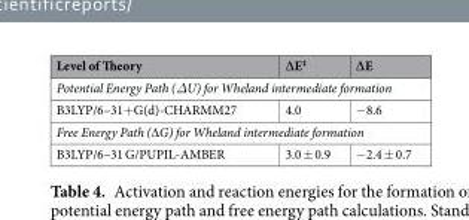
<table><thead><tr><td>Level of Theory</td><td>∆E<sup>‡</sup></td><td>∆E</td></tr></thead><tbody><tr><td colspan="3">Potential Energy Path (ΔU) for Wheland intermediate formation</td></tr><tr><td>B3LYP/6–31+G(d)-CHARMM27</td><td>4.0</td><td>−8.6</td></tr><tr><td colspan="3">Free Energy Path (∆G) for Wheland intermediate formation</td></tr><tr><td>B3LYP/6–31 G/PUPIL-AMBER</td><td>3.0 ± 0.9</td><td>−2.4 ± 0.7</td></tr></tbody></table>